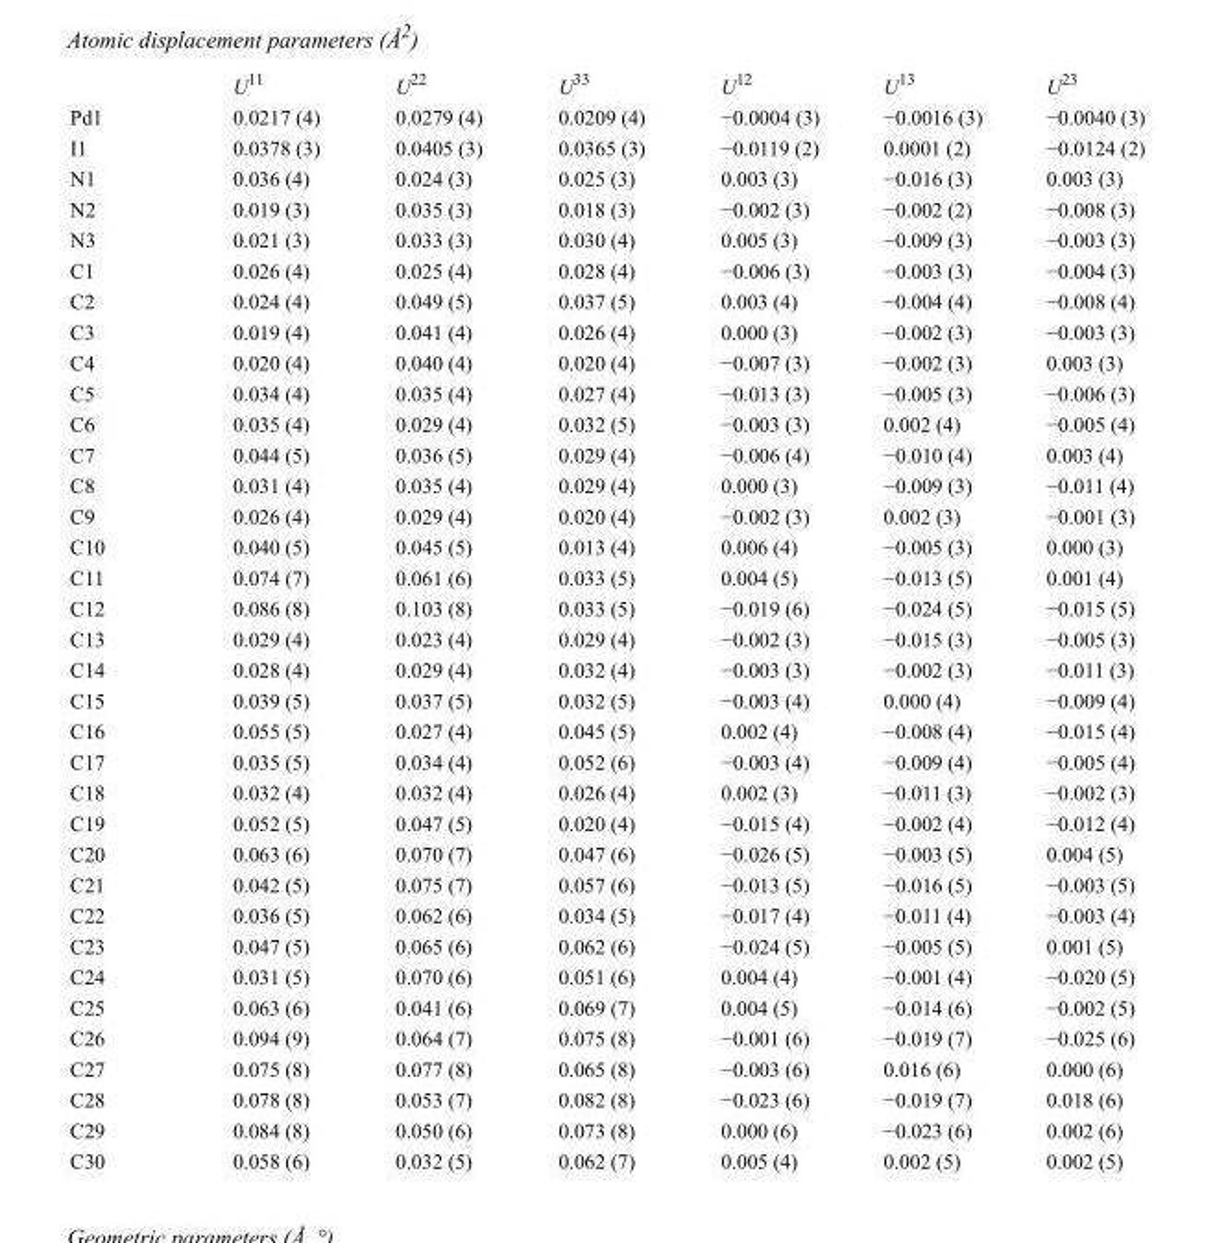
<table><thead><tr><td></td><td>U<sup>11</sup></td><td>U<sup>22</sup></td><td>U<sup>33</sup></td><td>U<sup>12</sup></td><td>U<sup>13</sup></td><td>U<sup>23</sup></td></tr></thead><tbody><tr><td>Pd1</td><td>0.0217 (4)</td><td>0.0279 (4)</td><td>0.0209 (4)</td><td>−0.0004 (3)</td><td>−0.0016 (3)</td><td>−0.0040 (3)</td></tr><tr><td>I1</td><td>0.0378 (3)</td><td>0.0405 (3)</td><td>0.0365 (3)</td><td>−0.0119 (2)</td><td>0.0001 (2)</td><td>−0.0124 (2)</td></tr><tr><td>N1</td><td>0.036 (4)</td><td>0.024 (3)</td><td>0.025 (3)</td><td>0.003 (3)</td><td>−0.016 (3)</td><td>0.003 (3)</td></tr><tr><td>N2</td><td>0.019 (3)</td><td>0.035 (3)</td><td>0.018 (3)</td><td>−0.002 (3)</td><td>−0.002 (2)</td><td>−0.008 (3)</td></tr><tr><td>N3</td><td>0.021 (3)</td><td>0.033 (3)</td><td>0.030 (4)</td><td>0.005 (3)</td><td>−0.009 (3)</td><td>−0.003 (3)</td></tr><tr><td>C1</td><td>0.026 (4)</td><td>0.025 (4)</td><td>0.028 (4)</td><td>−0.006 (3)</td><td>−0.003 (3)</td><td>−0.004 (3)</td></tr><tr><td>C2</td><td>0.024 (4)</td><td>0.049 (5)</td><td>0.037 (5)</td><td>0.003 (4)</td><td>−0.004 (4)</td><td>−0.008 (4)</td></tr><tr><td>C3</td><td>0.019 (4)</td><td>0.041 (4)</td><td>0.026 (4)</td><td>0.000 (3)</td><td>−0.002 (3)</td><td>−0.003 (3)</td></tr><tr><td>C4</td><td>0.020 (4)</td><td>0.040 (4)</td><td>0.020 (4)</td><td>−0.007 (3)</td><td>−0.002 (3)</td><td>0.003 (3)</td></tr><tr><td>C5</td><td>0.034 (4)</td><td>0.035 (4)</td><td>0.027 (4)</td><td>−0.013 (3)</td><td>−0.005 (3)</td><td>−0.006 (3)</td></tr><tr><td>C6</td><td>0.035 (4)</td><td>0.029 (4)</td><td>0.032 (5)</td><td>−0.003 (3)</td><td>0.002 (4)</td><td>−0.005 (4)</td></tr><tr><td>C7</td><td>0.044 (5)</td><td>0.036 (5)</td><td>0.029 (4)</td><td>−0.006 (4)</td><td>−0.010 (4)</td><td>0.003 (4)</td></tr><tr><td>C8</td><td>0.031 (4)</td><td>0.035 (4)</td><td>0.029 (4)</td><td>0.000 (3)</td><td>−0.009 (3)</td><td>−0.011 (4)</td></tr><tr><td>C9</td><td>0.026 (4)</td><td>0.029 (4)</td><td>0.020 (4)</td><td>−0.002 (3)</td><td>0.002 (3)</td><td>−0.001 (3)</td></tr><tr><td>C10</td><td>0.040 (5)</td><td>0.045 (5)</td><td>0.013 (4)</td><td>0.006 (4)</td><td>−0.005 (3)</td><td>0.000 (3)</td></tr><tr><td>C11</td><td>0.074 (7)</td><td>0.061 (6)</td><td>0.033 (5)</td><td>0.004 (5)</td><td>−0.013 (5)</td><td>0.001 (4)</td></tr><tr><td>C12</td><td>0.086 (8)</td><td>0.103 (8)</td><td>0.033 (5)</td><td>−0.019 (6)</td><td>−0.024 (5)</td><td>−0.015 (5)</td></tr><tr><td>C13</td><td>0.029 (4)</td><td>0.023 (4)</td><td>0.029 (4)</td><td>−0.002 (3)</td><td>−0.015 (3)</td><td>−0.005 (3)</td></tr><tr><td>C14</td><td>0.028 (4)</td><td>0.029 (4)</td><td>0.032 (4)</td><td>−0.003 (3)</td><td>−0.002 (3)</td><td>−0.011 (3)</td></tr><tr><td>C15</td><td>0.039 (5)</td><td>0.037 (5)</td><td>0.032 (5)</td><td>−0.003 (4)</td><td>0.000 (4)</td><td>−0.009 (4)</td></tr><tr><td>C16</td><td>0.055 (5)</td><td>0.027 (4)</td><td>0.045 (5)</td><td>0.002 (4)</td><td>−0.008 (4)</td><td>−0.015 (4)</td></tr><tr><td>C17</td><td>0.035 (5)</td><td>0.034 (4)</td><td>0.052 (6)</td><td>−0.003 (4)</td><td>−0.009 (4)</td><td>−0.005 (4)</td></tr><tr><td>C18</td><td>0.032 (4)</td><td>0.032 (4)</td><td>0.026 (4)</td><td>0.002 (3)</td><td>−0.011 (3)</td><td>−0.002 (3)</td></tr><tr><td>C19</td><td>0.052 (5)</td><td>0.047 (5)</td><td>0.020 (4)</td><td>−0.015 (4)</td><td>−0.002 (4)</td><td>−0.012 (4)</td></tr><tr><td>C20</td><td>0.063 (6)</td><td>0.070 (7)</td><td>0.047 (6)</td><td>−0.026 (5)</td><td>−0.003 (5)</td><td>0.004 (5)</td></tr><tr><td>C21</td><td>0.042 (5)</td><td>0.075 (7)</td><td>0.057 (6)</td><td>−0.013 (5)</td><td>−0.016 (5)</td><td>−0.003 (5)</td></tr><tr><td>C22</td><td>0.036 (5)</td><td>0.062 (6)</td><td>0.034 (5)</td><td>−0.017 (4)</td><td>−0.011 (4)</td><td>−0.003 (4)</td></tr><tr><td>C23</td><td>0.047 (5)</td><td>0.065 (6)</td><td>0.062 (6)</td><td>−0.024 (5)</td><td>−0.005 (5)</td><td>0.001 (5)</td></tr><tr><td>C24</td><td>0.031 (5)</td><td>0.070 (6)</td><td>0.051 (6)</td><td>0.004 (4)</td><td>−0.001 (4)</td><td>−0.020 (5)</td></tr><tr><td>C25</td><td>0.063 (6)</td><td>0.041 (6)</td><td>0.069 (7)</td><td>0.004 (5)</td><td>−0.014 (6)</td><td>−0.002 (5)</td></tr><tr><td>C26</td><td>0.094 (9)</td><td>0.064 (7)</td><td>0.075 (8)</td><td>−0.001 (6)</td><td>−0.019 (7)</td><td>−0.025 (6)</td></tr><tr><td>C27</td><td>0.075 (8)</td><td>0.077 (8)</td><td>0.065 (8)</td><td>−0.003 (6)</td><td>0.016 (6)</td><td>0.000 (6)</td></tr><tr><td>C28</td><td>0.078 (8)</td><td>0.053 (7)</td><td>0.082 (8)</td><td>−0.023 (6)</td><td>−0.019 (7)</td><td>0.018 (6)</td></tr><tr><td>C29</td><td>0.084 (8)</td><td>0.050 (6)</td><td>0.073 (8)</td><td>0.000 (6)</td><td>−0.023 (6)</td><td>0.002 (6)</td></tr><tr><td>C30</td><td>0.058 (6)</td><td>0.032 (5)</td><td>0.062 (7)</td><td>0.005 (4)</td><td>0.002 (5)</td><td>0.002 (5)</td></tr></tbody></table>